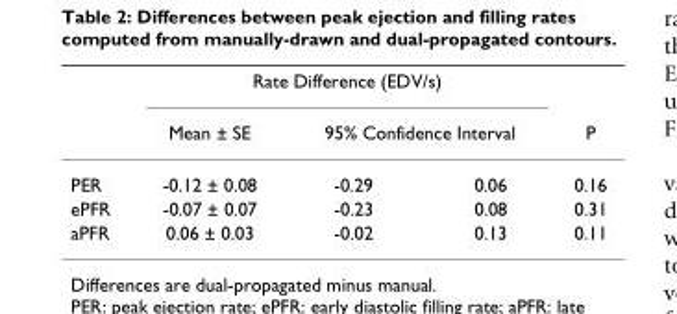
<table><thead><tr><td rowspan="3">PER</td><td colspan="3">Rate Difference (EDV/s)</td><td rowspan="3">P 0.16</td></tr><tr><td rowspan="2">Mean ± SE -0.12 ± 0.08</td><td colspan="2">95% Confidence Interval</td></tr><tr><td>-0.29</td><td>0.06</td></tr></thead><tbody><tr><td>ePFR</td><td>-0.07 ± 0.07</td><td>-0.23</td><td>0.08</td><td>0.31</td></tr><tr><td>aPFR</td><td>0.06 ± 0.03</td><td>-0.02</td><td>0.13</td><td>0.11</td></tr></tbody></table>